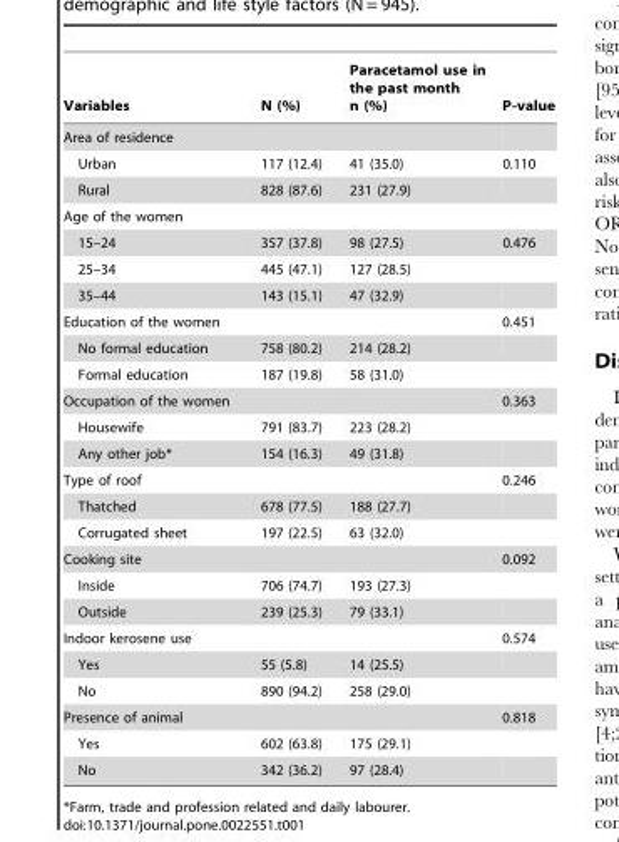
<table><thead><tr><td>Variables</td><td>N (%)</td><td>Paracetamol use in the past month n (%)</td><td>P-value</td></tr></thead><tbody><tr><td colspan="4">Area of residence</td></tr><tr><td>Urban</td><td>117 (12.4)</td><td>41 (35.0)</td><td>0.110</td></tr><tr><td>Rural</td><td>828 (87.6)</td><td>231 (27.9)</td><td></td></tr><tr><td colspan="4">Age of the women</td></tr><tr><td>15–24</td><td>357 (37.8)</td><td>98 (27.5)</td><td>0.476</td></tr><tr><td>25–34</td><td>445 (47.1)</td><td>127 (28.5)</td><td></td></tr><tr><td>35–44</td><td>143 (15.1)</td><td>47 (32.9)</td><td></td></tr><tr><td>Education of the women</td><td></td><td></td><td>0.451</td></tr><tr><td>No formal education</td><td>758 (80.2)</td><td>214 (28.2)</td><td></td></tr><tr><td>Formal education</td><td>187 (19.8)</td><td>58 (31.0)</td><td></td></tr><tr><td>Occupation of the women</td><td></td><td></td><td>0.363</td></tr><tr><td>Housewife</td><td>791 (83.7)</td><td>223 (28.2)</td><td></td></tr><tr><td>Any other job*</td><td>154 (16.3)</td><td>49 (31.8)</td><td></td></tr><tr><td>Type of roof</td><td></td><td></td><td>0.246</td></tr><tr><td>Thatched</td><td>678 (77.5)</td><td>188 (27.7)</td><td></td></tr><tr><td>Corrugated sheet</td><td>197 (22.5)</td><td>63 (32.0)</td><td></td></tr><tr><td>Cooking site</td><td></td><td></td><td>0.092</td></tr><tr><td>Inside</td><td>706 (74.7)</td><td>193 (27.3)</td><td></td></tr><tr><td>Outside</td><td>239 (25.3)</td><td>79 (33.1)</td><td></td></tr><tr><td>Indoor kerosene use</td><td></td><td></td><td>0.574</td></tr><tr><td>Yes</td><td>55 (5.8)</td><td>14 (25.5)</td><td></td></tr><tr><td>No</td><td>890 (94.2)</td><td>258 (29.0)</td><td></td></tr><tr><td>Presence of animal</td><td></td><td></td><td>0.818</td></tr><tr><td>Yes</td><td>602 (63.8)</td><td>175 (29.1)</td><td></td></tr><tr><td>No</td><td>342 (36.2)</td><td>97 (28.4)</td><td></td></tr></tbody></table>